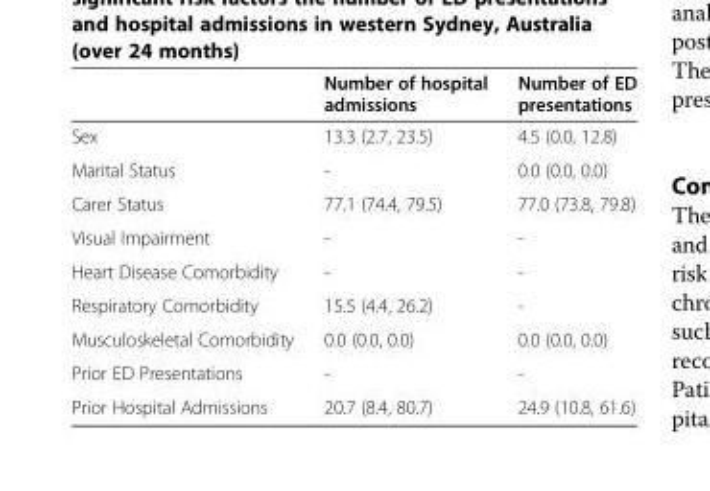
<table><thead><tr><td></td><td>Number of hospital admissions</td><td>Number of ED presentations</td></tr></thead><tbody><tr><td>Sex</td><td>13.3 (2.7, 23.5)</td><td>4.5 (0.0, 12.8)</td></tr><tr><td>Marital Status</td><td>-</td><td>0.0 (0.0, 0.0)</td></tr><tr><td>Carer Status</td><td>77.1 (74.4, 79.5)</td><td>77.0 (73.8, 79.8)</td></tr><tr><td>Visual Impairment</td><td>-</td><td>-</td></tr><tr><td>Heart Disease Comorbidity</td><td>-</td><td>-</td></tr><tr><td>Respiratory Comorbidity</td><td>15.5 (4.4, 26.2)</td><td>-</td></tr><tr><td>Musculoskeletal Comorbidity</td><td>0.0 (0.0, 0.0)</td><td>0.0 (0.0, 0.0)</td></tr><tr><td>Prior ED Presentations</td><td>-</td><td>-</td></tr><tr><td>Prior Hospital Admissions</td><td>20.7 (8.4, 80.7)</td><td>24.9 (10.8, 61.6)</td></tr></tbody></table>